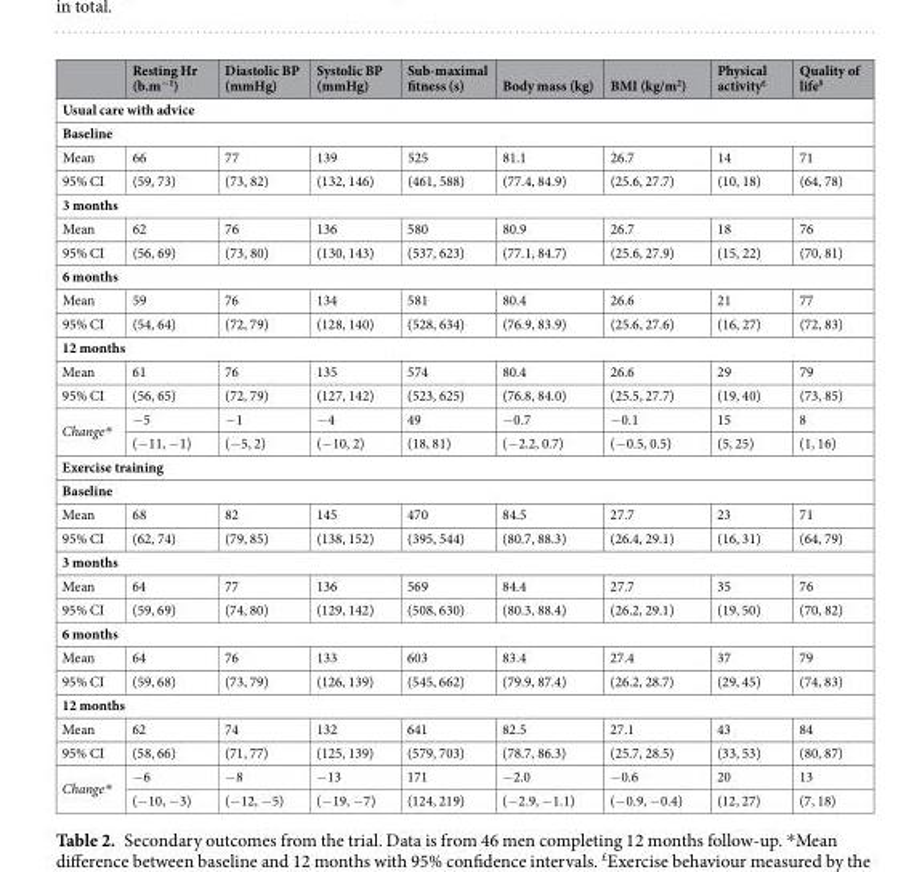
<table><thead><tr><td></td><td>Resting Hr (b.m<sup>−1</sup>)</td><td>Diastolic BP (mmHg)</td><td>Systolic BP (mmHg)</td><td>Sub-maximal fitness (s)</td><td>Body mass (kg)</td><td>BMI (kg/m<sup>2</sup>)</td><td>Physical activity<sup>£</sup></td><td>Quality of life<sup>$</sup></td></tr></thead><tbody><tr><td colspan="9">Usual care with advice</td></tr><tr><td colspan="9">Baseline</td></tr><tr><td>Mean</td><td>66</td><td>77</td><td>139</td><td>525</td><td>81.1</td><td>26.7</td><td>14</td><td>71</td></tr><tr><td>95% CI</td><td>(59, 73)</td><td>(73, 82)</td><td>(132, 146)</td><td>(461, 588)</td><td>(77.4, 84.9)</td><td>(25.6, 27.7)</td><td>(10, 18)</td><td>(64, 78)</td></tr><tr><td colspan="9">3 months</td></tr><tr><td>Mean</td><td>62</td><td>76</td><td>136</td><td>580</td><td>80.9</td><td>26.7</td><td>18</td><td>76</td></tr><tr><td>95% CI</td><td>(56, 69)</td><td>(73, 80)</td><td>(130, 143)</td><td>(537, 623)</td><td>(77.1, 84.7)</td><td>(25.6, 27.9)</td><td>(15, 22)</td><td>(70, 81)</td></tr><tr><td colspan="9">6 months</td></tr><tr><td>Mean</td><td>59</td><td>76</td><td>134</td><td>581</td><td>80.4</td><td>26.6</td><td>21</td><td>77</td></tr><tr><td>95% CI</td><td>(54, 64)</td><td>(72, 79)</td><td>(128, 140)</td><td>(528, 634)</td><td>(76.9, 83.9)</td><td>(25.6, 27.6)</td><td>(16, 27)</td><td>(72, 83)</td></tr><tr><td colspan="9">12 months</td></tr><tr><td>Mean</td><td>61</td><td>76</td><td>135</td><td>574</td><td>80.4</td><td>26.6</td><td>29</td><td>79</td></tr><tr><td>95% CI</td><td>(56, 65)</td><td>(72, 79)</td><td>(127, 142)</td><td>(523, 625)</td><td>(76.8, 84.0)</td><td>(25.5, 27.7)</td><td>(19, 40)</td><td>(73, 85)</td></tr><tr><td rowspan="2">Change*</td><td>−5</td><td>−1</td><td>−4</td><td>49</td><td>−0.7</td><td>−0.1</td><td>15</td><td>8</td></tr><tr><td>(−11, −1)</td><td>(−5, 2)</td><td>(−10, 2)</td><td>(18, 81)</td><td>(−2.2, 0.7)</td><td>(−0.5, 0.5)</td><td>(5, 25)</td><td>(1, 16)</td></tr><tr><td colspan="9">Exercise training</td></tr><tr><td colspan="9">Baseline</td></tr><tr><td>Mean</td><td>68</td><td>82</td><td>145</td><td>470</td><td>84.5</td><td>27.7</td><td>23</td><td>71</td></tr><tr><td>95% CI</td><td>(62, 74)</td><td>(79, 85)</td><td>(138, 152)</td><td>(395, 544)</td><td>(80.7, 88.3)</td><td>(26.4, 29.1)</td><td>(16, 31)</td><td>(64, 79)</td></tr><tr><td colspan="9">3 months</td></tr><tr><td>Mean</td><td>64</td><td>77</td><td>136</td><td>569</td><td>84.4</td><td>27.7</td><td>35</td><td>76</td></tr><tr><td>95% CI</td><td>(59, 69)</td><td>(74, 80)</td><td>(129, 142)</td><td>(508, 630)</td><td>(80.3, 88.4)</td><td>(26.2, 29.1)</td><td>(19, 50)</td><td>(70, 82)</td></tr><tr><td colspan="9">6 months</td></tr><tr><td>Mean</td><td>64</td><td>76</td><td>133</td><td>603</td><td>83.4</td><td>27.4</td><td>37</td><td>79</td></tr><tr><td>95% CI</td><td>(59, 68)</td><td>(73, 79)</td><td>(126, 139)</td><td>(545, 662)</td><td>(79.9, 87.4)</td><td>(26.2, 28.7)</td><td>(29, 45)</td><td>(74, 83)</td></tr><tr><td colspan="9">12 months</td></tr><tr><td>Mean</td><td>62</td><td>74</td><td>132</td><td>641</td><td>82.5</td><td>27.1</td><td>43</td><td>84</td></tr><tr><td>95% CI</td><td>(58, 66)</td><td>(71, 77)</td><td>(125, 139)</td><td>(579, 703)</td><td>(78.7, 86.3)</td><td>(25.7, 28.5)</td><td>(33, 53)</td><td>(80, 87)</td></tr><tr><td rowspan="2">Change*</td><td>−6</td><td>−8</td><td>−13</td><td>171</td><td>−2.0</td><td>−0.6</td><td>20</td><td>13</td></tr><tr><td>(−10, −3)</td><td>(−12, −5)</td><td>(−19, −7)</td><td>(124, 219)</td><td>(−2.9, −1.1)</td><td>(−0.9, −0.4)</td><td>(12, 27)</td><td>(7, 18)</td></tr></tbody></table>